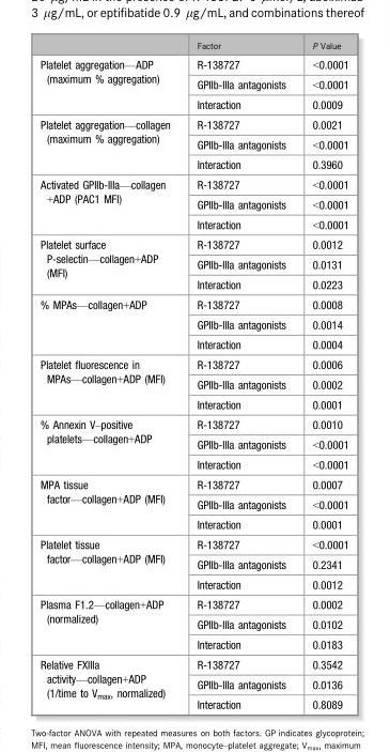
<table><thead><tr><td></td><td>Factor</td><td>P Value</td></tr></thead><tbody><tr><td rowspan="3">Platelet aggregation—ADP (maximum % aggregation)</td><td>R-138727</td><td>&lt;0.0001</td></tr><tr><td>GPIIb-IIIa antagonists</td><td>&lt;0.0001</td></tr><tr><td>Interaction</td><td>0.0009</td></tr><tr><td rowspan="3">Platelet aggregation—collagen (maximum % aggregation)</td><td>R-138727</td><td>0.0021</td></tr><tr><td>GPIIb-IIIa antagonists</td><td>&lt;0.0001</td></tr><tr><td>Interaction</td><td>0.3960</td></tr><tr><td rowspan="3">Activated GPIIb-IIIa—collagen +ADP (PAC1 MFI)</td><td>R-138727</td><td>&lt;0.0001</td></tr><tr><td>GPIIb-IIIa antagonists</td><td>&lt;0.0001</td></tr><tr><td>Interaction</td><td>&lt;0.0001</td></tr><tr><td rowspan="3">Platelet surface P-selectin—collagen+ADP (MFI)</td><td>R-138727</td><td>0.0012</td></tr><tr><td>GPIIb-IIIa antagonists</td><td>0.0131</td></tr><tr><td>Interaction</td><td>0.0223</td></tr><tr><td rowspan="3">% MPAs—collagen+ADP</td><td>R-138727</td><td>0.0008</td></tr><tr><td>GPIIb-IIIa antagonists</td><td>0.0014</td></tr><tr><td>Interaction</td><td>0.0004</td></tr><tr><td rowspan="3">Platelet fluorescence in MPAs—collagen+ADP (MFI)</td><td>R-138727</td><td>0.0006</td></tr><tr><td>GPIIb-IIIa antagonists</td><td>0.0002</td></tr><tr><td>Interaction</td><td>0.0001</td></tr><tr><td rowspan="3">% Annexin V–positive platelets—collagen+ADP</td><td>R-138727</td><td>0.0010</td></tr><tr><td>GPIIb-IIIa antagonists</td><td>&lt;0.0001</td></tr><tr><td>Interaction</td><td>&lt;0.0001</td></tr><tr><td rowspan="3">MPA tissue factor—collagen+ADP (MFI)</td><td>R-138727</td><td>0.0007</td></tr><tr><td>GPIIb-IIIa antagonists</td><td>&lt;0.0001</td></tr><tr><td>Interaction</td><td>0.0001</td></tr><tr><td rowspan="3">Platelet tissue factor—collagen+ADP (MFI)</td><td>R-138727</td><td>&lt;0.0001</td></tr><tr><td>GPIIb-IIIa antagonists</td><td>0.2341</td></tr><tr><td>Interaction</td><td>0.0012</td></tr><tr><td rowspan="3">Plasma F1.2—collagen+ADP (normalized)</td><td>R-138727</td><td>0.0002</td></tr><tr><td>GPIIb-IIIa antagonists</td><td>0.0102</td></tr><tr><td>Interaction</td><td>0.0183</td></tr><tr><td rowspan="3">Relative FXIIIa activity—collagen+ADP (1/time to V<sub>max</sub>, normalized)</td><td>R-138727</td><td>0.3542</td></tr><tr><td>GPIIb-IIIa antagonists</td><td>0.0136</td></tr><tr><td>Interaction</td><td>0.8089</td></tr></tbody></table>